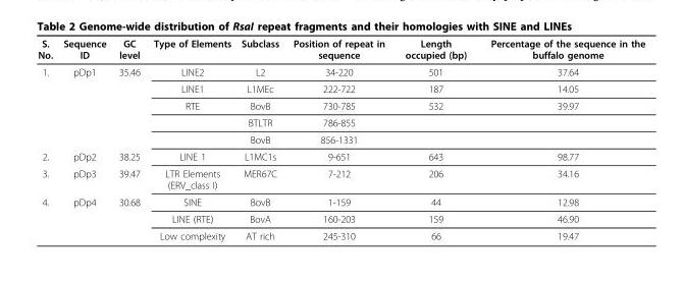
<table><thead><tr><td>S. No.</td><td>Sequence ID</td><td>GC level</td><td>Type of Elements</td><td>Subclass</td><td>Position of repeat in sequence</td><td>Length occupied (bp)</td><td>Percentage of the sequence in the buffalo genome</td></tr></thead><tbody><tr><td rowspan="5">1.</td><td>pDp1</td><td>35.46</td><td>LINE2</td><td>L2</td><td>34-220</td><td>501</td><td>37.64</td></tr><tr><td></td><td></td><td>LINE1</td><td>L1MEc</td><td>222-722</td><td>187</td><td>14.05</td></tr><tr><td></td><td></td><td>RTE</td><td>BovB</td><td>730-785</td><td>532</td><td>39.97</td></tr><tr><td></td><td></td><td></td><td>BTLTR</td><td>786-855</td><td></td><td></td></tr><tr><td></td><td></td><td></td><td>BovB</td><td>856-1331</td><td></td><td></td></tr><tr><td>2.</td><td>pDp2</td><td>38.25</td><td>LINE 1</td><td>L1MC1s</td><td>9-651</td><td>643</td><td>98.77</td></tr><tr><td>3.</td><td>pDp3</td><td>39.47</td><td>LTR Elements (ERV_class I)</td><td>MER67C</td><td>7-212</td><td>206</td><td>34.16</td></tr><tr><td rowspan="3">4.</td><td>pDp4</td><td>30.68</td><td>SINE</td><td>BovB</td><td>1-159</td><td>44</td><td>12.98</td></tr><tr><td></td><td></td><td>LINE (RTE)</td><td>BovA</td><td>160-203</td><td>159</td><td>46.90</td></tr><tr><td></td><td></td><td>Low complexity</td><td>AT rich</td><td>245-310</td><td>66</td><td>19.47</td></tr></tbody></table>